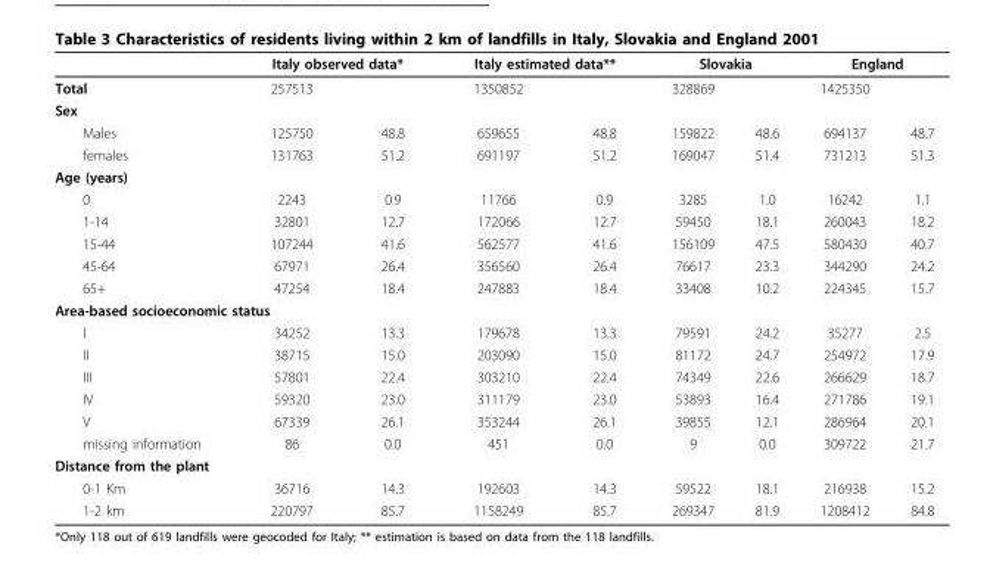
<table><thead><tr><td rowspan="2">Total</td><td colspan="2">Italy observed data*</td><td colspan="2">Italy estimated data**</td><td colspan="2">Slovakia</td><td colspan="2">England</td></tr><tr><td>257513</td><td></td><td>1350852</td><td></td><td>328869</td><td></td><td>1425350</td><td></td></tr></thead><tbody><tr><td colspan="9">Sex</td></tr><tr><td>Males</td><td>125750</td><td>48.8</td><td>659655</td><td>48.8</td><td>159822</td><td>48.6</td><td>694137</td><td>48.7</td></tr><tr><td>females</td><td>131763</td><td>51.2</td><td>691197</td><td>51.2</td><td>169047</td><td>51.4</td><td>731213</td><td>51.3</td></tr><tr><td colspan="9">Age (years)</td></tr><tr><td>0</td><td>2243</td><td>0.9</td><td>11766</td><td>0.9</td><td>3285</td><td>1.0</td><td>16242</td><td>1.1</td></tr><tr><td>1-14</td><td>32801</td><td>12.7</td><td>172066</td><td>12.7</td><td>59450</td><td>18.1</td><td>260043</td><td>18.2</td></tr><tr><td>15-44</td><td>107244</td><td>41.6</td><td>562577</td><td>41.6</td><td>156109</td><td>47.5</td><td>580430</td><td>40.7</td></tr><tr><td>45-64</td><td>67971</td><td>26.4</td><td>356560</td><td>26.4</td><td>76617</td><td>23.3</td><td>344290</td><td>24.2</td></tr><tr><td>65+</td><td>47254</td><td>18.4</td><td>247883</td><td>18.4</td><td>33408</td><td>10.2</td><td>224345</td><td>15.7</td></tr><tr><td colspan="9">Area-based socioeconomic status</td></tr><tr><td>I</td><td>34252</td><td>13.3</td><td>179678</td><td>13.3</td><td>79591</td><td>24.2</td><td>35277</td><td>2.5</td></tr><tr><td>II</td><td>38715</td><td>15.0</td><td>203090</td><td>15.0</td><td>81172</td><td>24.7</td><td>254972</td><td>17.9</td></tr><tr><td>III</td><td>57801</td><td>22.4</td><td>303210</td><td>22.4</td><td>74349</td><td>22.6</td><td>266629</td><td>18.7</td></tr><tr><td>IV</td><td>59320</td><td>23.0</td><td>311179</td><td>23.0</td><td>53893</td><td>16.4</td><td>271786</td><td>19.1</td></tr><tr><td>V</td><td>67339</td><td>26.1</td><td>353244</td><td>26.1</td><td>39855</td><td>12.1</td><td>286964</td><td>20.1</td></tr><tr><td>missing information</td><td>86</td><td>0.0</td><td>451</td><td>0.0</td><td>9</td><td>0.0</td><td>309722</td><td>21.7</td></tr><tr><td colspan="9">Distance from the plant</td></tr><tr><td>0-1 Km</td><td>36716</td><td>14.3</td><td>192603</td><td>14.3</td><td>59522</td><td>18.1</td><td>216938</td><td>15.2</td></tr><tr><td>1-2 km</td><td>220797</td><td>85.7</td><td>1158249</td><td>85.7</td><td>269347</td><td>81.9</td><td>1208412</td><td>84.8</td></tr></tbody></table>